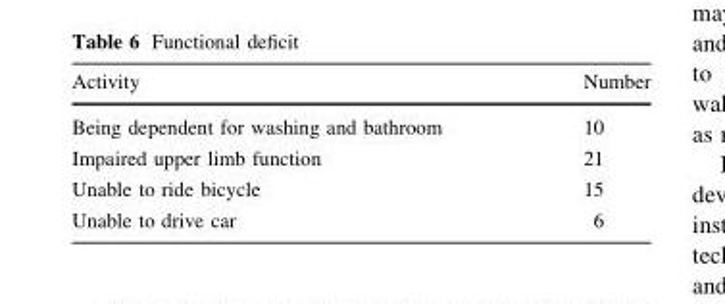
<table><thead><tr><td>Activity</td><td>Number</td></tr></thead><tbody><tr><td>Being dependent for washing and bathroom</td><td>10</td></tr><tr><td>Impaired upper limb function</td><td>21</td></tr><tr><td>Unable to ride bicycle</td><td>15</td></tr><tr><td>Unable to drive car</td><td>6</td></tr></tbody></table>